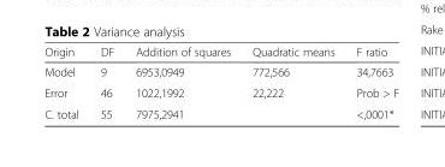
<table><thead><tr><td>Origin</td><td>DF</td><td>Addition of squares</td><td>Quadratic means</td><td>F ratio</td></tr></thead><tbody><tr><td>Model</td><td>9</td><td>6953,0949</td><td>772,566</td><td>34,7663</td></tr><tr><td>Error</td><td>46</td><td>1022,1992</td><td>22,222</td><td>Prob &gt; F</td></tr><tr><td>C. total</td><td>55</td><td>7975,2941</td><td></td><td>&lt;,0001*</td></tr></tbody></table>